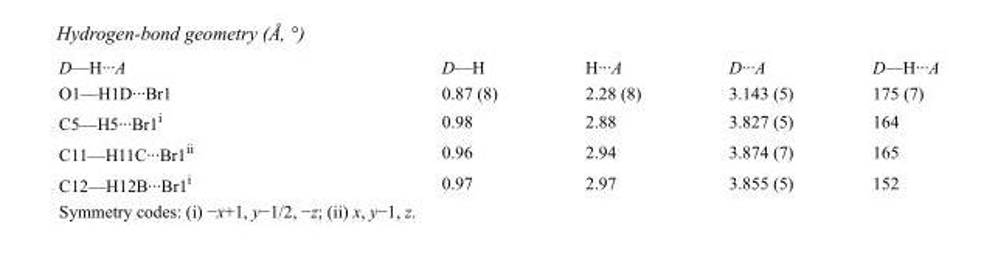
<table><tbody><tr><td>D—H···A</td><td>D—H</td><td>H···A</td><td>D···A</td><td>D—H···A</td></tr><tr><td>O1—H1D···Br1</td><td>0.87 (8)</td><td>2.28 (8)</td><td>3.143 (5)</td><td>175 (7)</td></tr><tr><td>C5—H5···Br1<sup>i</sup></td><td>0.98</td><td>2.88</td><td>3.827 (5)</td><td>164</td></tr><tr><td>C11—H11C···Br1<sup>ii</sup></td><td>0.96</td><td>2.94</td><td>3.874 (7)</td><td>165</td></tr><tr><td>C12—H12B···Br1<sup>i</sup></td><td>0.97</td><td>2.97</td><td>3.855 (5)</td><td>152</td></tr></tbody></table>